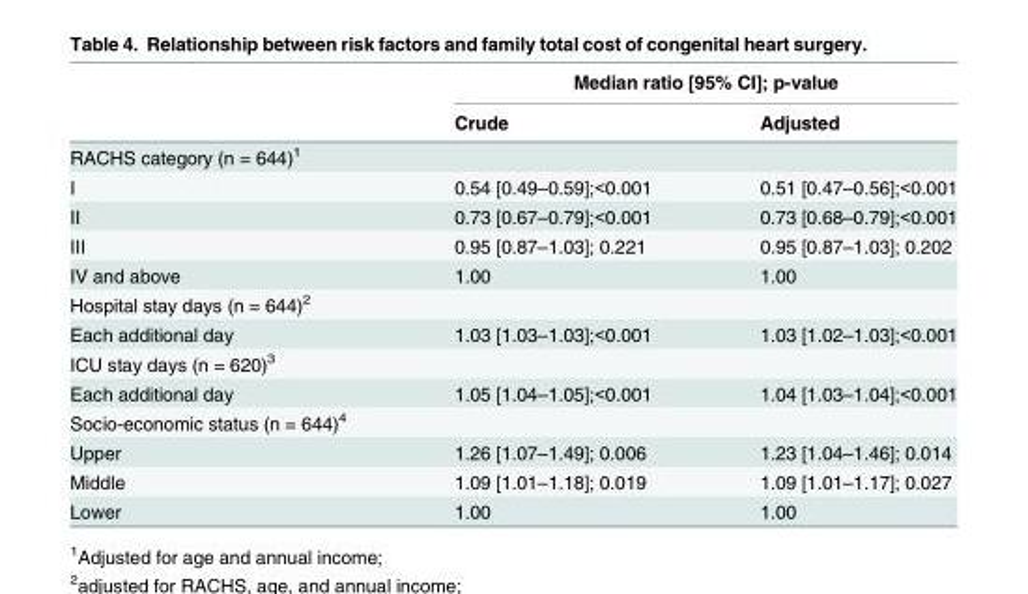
<table><thead><tr><td rowspan="2"></td><td colspan="2">Median ratio [95% CI]; p-value</td></tr><tr><td>Crude</td><td>Adjusted</td></tr></thead><tbody><tr><td colspan="3">RACHS category (n = 644)<sup>1</sup></td></tr><tr><td>I</td><td>0.54 [0.49–0.59];&lt;0.001</td><td>0.51 [0.47–0.56];&lt;0.001</td></tr><tr><td>II</td><td>0.73 [0.67–0.79];&lt;0.001</td><td>0.73 [0.68–0.79];&lt;0.001</td></tr><tr><td>III</td><td>0.95 [0.87–1.03]; 0.221</td><td>0.95 [0.87–1.03]; 0.202</td></tr><tr><td>IV and above</td><td>1.00</td><td>1.00</td></tr><tr><td colspan="3">Hospital stay days (n = 644)<sup>2</sup></td></tr><tr><td>Each additional day</td><td>1.03 [1.03–1.03];&lt;0.001</td><td>1.03 [1.02–1.03];&lt;0.001</td></tr><tr><td colspan="3">ICU stay days (n = 620)<sup>3</sup></td></tr><tr><td>Each additional day</td><td>1.05 [1.04–1.05];&lt;0.001</td><td>1.04 [1.03–1.04];&lt;0.001</td></tr><tr><td colspan="3">Socio-economic status (n = 644)<sup>4</sup></td></tr><tr><td>Upper</td><td>1.26 [1.07–1.49]; 0.006</td><td>1.23 [1.04–1.46]; 0.014</td></tr><tr><td>Middle</td><td>1.09 [1.01–1.18]; 0.019</td><td>1.09 [1.01–1.17]; 0.027</td></tr><tr><td>Lower</td><td>1.00</td><td>1.00</td></tr></tbody></table>